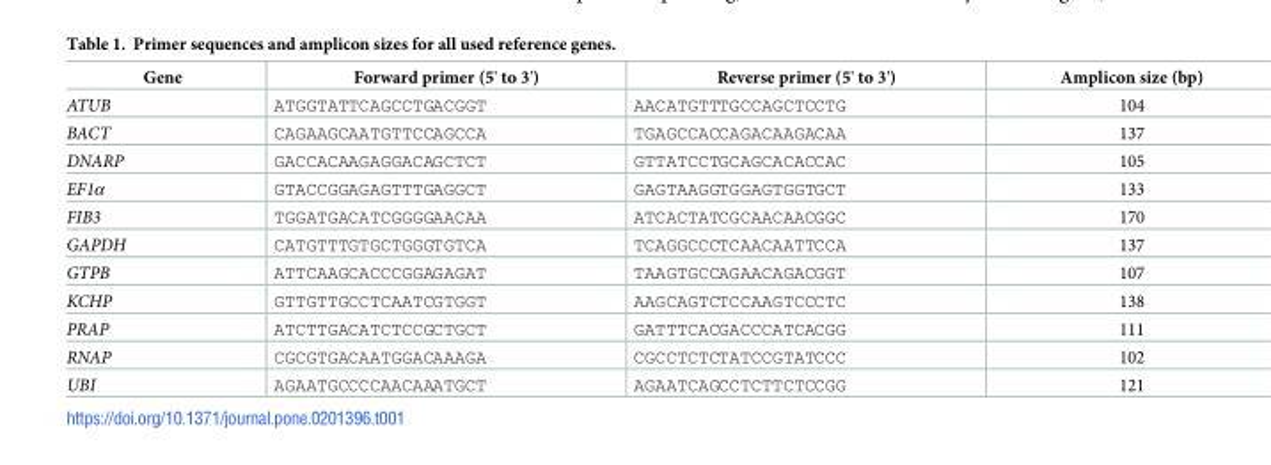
<table><thead><tr><td>Gene</td><td>Forward primer (5&#x27; to 3&#x27;)</td><td>Reverse primer (5&#x27; to 3&#x27;)</td><td>Amplicon size (bp)</td></tr></thead><tbody><tr><td>ATUB</td><td>ATGGTATTCAGCCTGACGGT</td><td>AACATGTTTGCCAGCTCCTG</td><td>104</td></tr><tr><td>BACT</td><td>CAGAAGCAATGTTCCAGCCA</td><td>TGAGCCACCAGACAAGACAA</td><td>137</td></tr><tr><td>DNARP</td><td>GACCACAAGAGGACAGCTCT</td><td>GTTATCCTGCAGCACACCAC</td><td>105</td></tr><tr><td>EF1α</td><td>GTACCGGAGAGTTTGAGGCT</td><td>GAGTAAGGTGGAGTGGTGCT</td><td>133</td></tr><tr><td>FIB3</td><td>TGGATGACATCGGGGAACAA</td><td>ATCACTATCGCAACAACGGC</td><td>170</td></tr><tr><td>GAPDH</td><td>CATGTTTGTGCTGGGTGTCA</td><td>TCAGGCCCTCAACAATTCCA</td><td>137</td></tr><tr><td>GTPB</td><td>ATTCAAGCACCCGGAGAGAT</td><td>TAAGTGCCAGAACAGACGGT</td><td>107</td></tr><tr><td>KCHP</td><td>GTTGTTGCCTCAATCGTGGT</td><td>AAGCAGTCTCCAAGTCCCTC</td><td>138</td></tr><tr><td>PRAP</td><td>ATCTTGACATCTCCGCTGCT</td><td>GATTTCACGACCCATCACGG</td><td>111</td></tr><tr><td>RNAP</td><td>CGCGTGACAATGGACAAAGA</td><td>CGCCTCTCTATCCGTATCCC</td><td>102</td></tr><tr><td>UBI</td><td>AGAATGCCCCAACAAATGCT</td><td>AGAATCAGCCTCTTCTCCGG</td><td>121</td></tr></tbody></table>